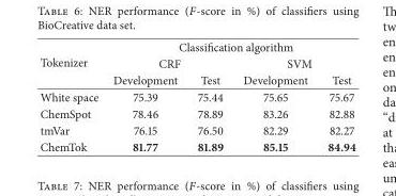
<table><thead><tr><td rowspan="3">Tokenizer</td><td colspan="4">Classification algorithm</td></tr><tr><td colspan="2">CRF</td><td colspan="2">SVM</td></tr><tr><td>Development</td><td>Test</td><td>Development</td><td>Test</td></tr></thead><tbody><tr><td>White space</td><td>75.39</td><td>75.44</td><td>75.65</td><td>75.67</td></tr><tr><td>ChemSpot</td><td>78.46</td><td>78.89</td><td>83.26</td><td>82.88</td></tr><tr><td>tmVar</td><td>76.15</td><td>76.50</td><td>82.29</td><td>82.27</td></tr><tr><td>ChemTok</td><td>81.77</td><td>81.89</td><td>85.15</td><td>84.94</td></tr></tbody></table>